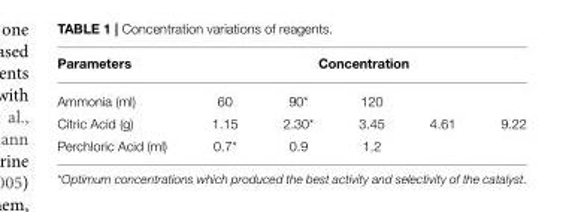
<table><thead><tr><td rowspan="2">Parameters Ammonia (ml)</td><td colspan="5">Concentration</td></tr><tr><td>60</td><td>90*</td><td>120</td><td></td><td></td></tr></thead><tbody><tr><td>Citric Acid (g)</td><td>1.15</td><td>2.30*</td><td>3.45</td><td>4.61</td><td>9.22</td></tr><tr><td>Perchloric Acid (ml)</td><td>0.7*</td><td>0.9</td><td>1.2</td><td></td><td></td></tr></tbody></table>